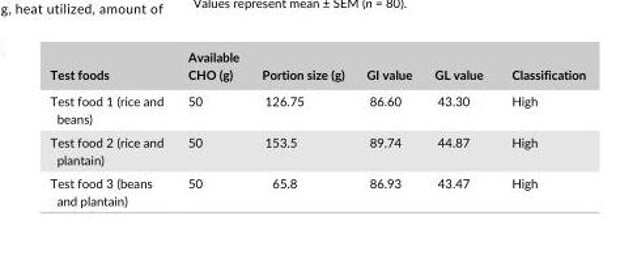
<table><thead><tr><td>Test foods</td><td>Available CHO (g)</td><td>Portion size (g)</td><td>GI value</td><td>GL value</td><td>Classification</td></tr></thead><tbody><tr><td>Test food 1 (rice and beans)</td><td>50</td><td>126.75</td><td>86.60</td><td>43.30</td><td>High</td></tr><tr><td>Test food 2 (rice and plantain)</td><td>50</td><td>153.5</td><td>89.74</td><td>44.87</td><td>High</td></tr><tr><td>Test food 3 (beans and plantain)</td><td>50</td><td>65.8</td><td>86.93</td><td>43.47</td><td>High</td></tr></tbody></table>